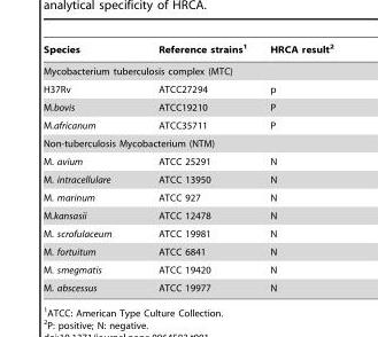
<table><thead><tr><td>Species</td><td>Reference strains<sup>1</sup></td><td>HRCA result<sup>2</sup></td></tr></thead><tbody><tr><td colspan="3">Mycobacterium tuberculosis complex (MTC)</td></tr><tr><td>H37Rv</td><td>ATCC27294</td><td>p</td></tr><tr><td>M.bovis</td><td>ATCC19210</td><td>P</td></tr><tr><td>M.africanum</td><td>ATCC35711</td><td>P</td></tr><tr><td colspan="3">Non-tuberculosis Mycobacterium (NTM)</td></tr><tr><td>M. avium</td><td>ATCC 25291</td><td>N</td></tr><tr><td>M. intracellulare</td><td>ATCC 13950</td><td>N</td></tr><tr><td>M. marinum</td><td>ATCC 927</td><td>N</td></tr><tr><td>M.kansasii</td><td>ATCC 12478</td><td>N</td></tr><tr><td>M. scrofulaceum</td><td>ATCC 19981</td><td>N</td></tr><tr><td>M. fortuitum</td><td>ATCC 6841</td><td>N</td></tr><tr><td>M. smegmatis</td><td>ATCC 19420</td><td>N</td></tr><tr><td>M. abscessus</td><td>ATCC 19977</td><td>N</td></tr></tbody></table>